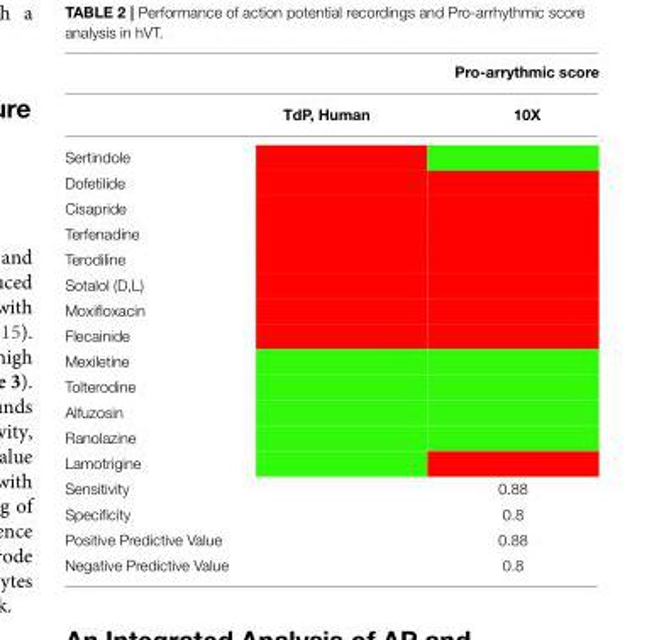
<table><thead><tr><td></td><td></td><td>Pro-arrythmic score</td></tr></thead><tbody><tr><td></td><td>TdP, Human</td><td>10X</td></tr><tr><td colspan="3">Sertindole</td></tr><tr><td colspan="3">Dofetilide</td></tr><tr><td colspan="3">Cisapride</td></tr><tr><td colspan="3">Terfenadine</td></tr><tr><td colspan="3">Terodiline</td></tr><tr><td colspan="3">Sotalol (D,L)</td></tr><tr><td colspan="3">Moxifloxacin</td></tr><tr><td colspan="3">Flecainide</td></tr><tr><td colspan="3">Mexiletine</td></tr><tr><td colspan="3">Tolterodine</td></tr><tr><td colspan="3">Alfuzosin</td></tr><tr><td colspan="3">Ranolazine</td></tr><tr><td colspan="3">Lamotrigine</td></tr><tr><td>Sensitivity</td><td></td><td>0.88</td></tr><tr><td>Specificity</td><td></td><td>0.8</td></tr><tr><td>Positive Predictive Value</td><td></td><td>0.88</td></tr><tr><td>Negative Predictive Value</td><td></td><td>0.8</td></tr></tbody></table>